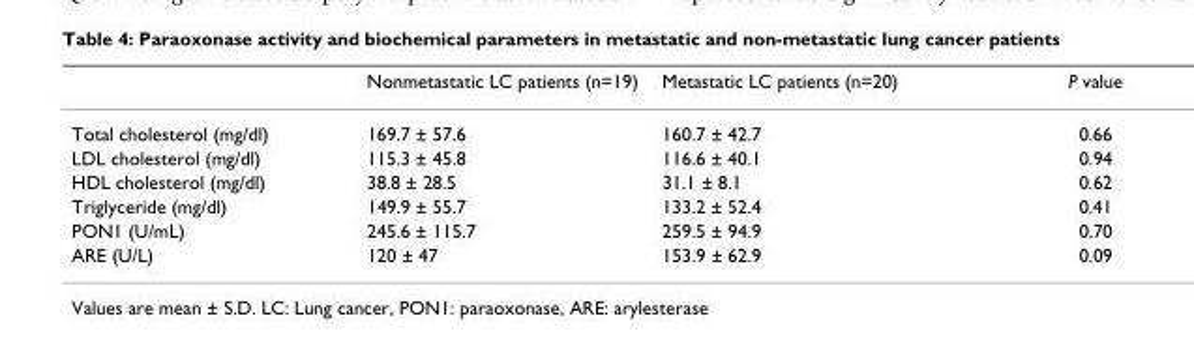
<table><thead><tr><td></td><td>Nonmetastatic LC patients (n=19)</td><td>Metastatic LC patients (n=20)</td><td>P value</td></tr></thead><tbody><tr><td>Total cholesterol (mg/dl)</td><td>169.7 ± 57.6</td><td>160.7 ± 42.7</td><td>0.66</td></tr><tr><td>LDL cholesterol (mg/dl)</td><td>115.3 ± 45.8</td><td>116.6 ± 40.1</td><td>0.94</td></tr><tr><td>HDL cholesterol (mg/dl)</td><td>38.8 ± 28.5</td><td>31.1 ± 8.1</td><td>0.62</td></tr><tr><td>Triglyceride (mg/dl)</td><td>149.9 ± 55.7</td><td>133.2 ± 52.4</td><td>0.41</td></tr><tr><td>PON1 (U/mL)</td><td>245.6 ± 115.7</td><td>259.5 ± 94.9</td><td>0.70</td></tr><tr><td>ARE (U/L)</td><td>120 ± 47</td><td>153.9 ± 62.9</td><td>0.09</td></tr></tbody></table>